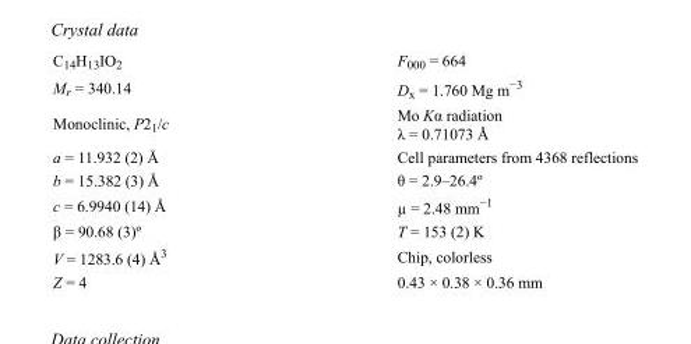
<table><tbody><tr><td>C<sub>14</sub>H<sub>13</sub>IO<sub>2</sub></td><td>F<sub>000</sub> = 664</td></tr><tr><td>M<sub>r</sub> = 340.14</td><td>D<sub>x</sub> = 1.760 Mg m<sup>−3</sup></td></tr><tr><td>Monoclinic, P2<sub>1</sub>/c</td><td>Mo Kα radiation λ = 0.71073 Å</td></tr><tr><td>a = 11.932 (2) Å</td><td>Cell parameters from 4368 reflections</td></tr><tr><td>b = 15.382 (3) Å</td><td>θ = 2.9–26.4º</td></tr><tr><td>c = 6.9940 (14) Å</td><td>µ = 2.48 mm<sup>−1</sup></td></tr><tr><td>β = 90.68 (3)º</td><td>T = 153 (2) K</td></tr><tr><td>V = 1283.6 (4) Å<sup>3</sup></td><td>Chip, colorless</td></tr><tr><td>Z = 4</td><td>0.43 × 0.38 × 0.36 mm</td></tr></tbody></table>